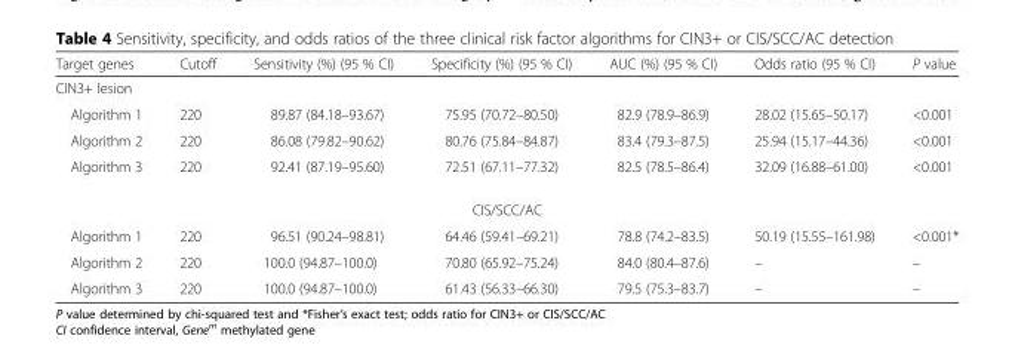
<table><thead><tr><td>Target genes</td><td>Cutoff</td><td>Sensitivity (%) (95 % CI)</td><td>Specificity (%) (95 % CI)</td><td>AUC (%) (95 % CI)</td><td>Odds ratio (95 % CI)</td><td>P value</td></tr></thead><tbody><tr><td colspan="7">CIN3+ lesion</td></tr><tr><td>Algorithm 1</td><td>220</td><td>89.87 (84.18–93.67)</td><td>75.95 (70.72–80.50)</td><td>82.9 (78.9–86.9)</td><td>28.02 (15.65–50.17)</td><td>&lt;0.001</td></tr><tr><td>Algorithm 2</td><td>220</td><td>86.08 (79.82–90.62)</td><td>80.76 (75.84–84.87)</td><td>83.4 (79.3–87.5)</td><td>25.94 (15.17–44.36)</td><td>&lt;0.001</td></tr><tr><td>Algorithm 3</td><td>220</td><td>92.41 (87.19–95.60)</td><td>72.51 (67.11–77.32)</td><td>82.5 (78.5–86.4)</td><td>32.09 (16.88–61.00)</td><td>&lt;0.001</td></tr><tr><td colspan="7">CIS/SCC/AC</td></tr><tr><td>Algorithm 1</td><td>220</td><td>96.51 (90.24–98.81)</td><td>64.46 (59.41–69.21)</td><td>78.8 (74.2–83.5)</td><td>50.19 (15.55–161.98)</td><td>&lt;0.001*</td></tr><tr><td>Algorithm 2</td><td>220</td><td>100.0 (94.87–100.0)</td><td>70.80 (65.92–75.24)</td><td>84.0 (80.4–87.6)</td><td>–</td><td>–</td></tr><tr><td>Algorithm 3</td><td>220</td><td>100.0 (94.87–100.0)</td><td>61.43 (56.33–66.30)</td><td>79.5 (75.3–83.7)</td><td>–</td><td>–</td></tr></tbody></table>